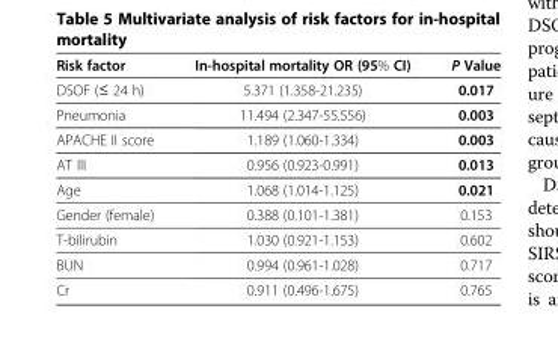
<table><thead><tr><td>Risk factor</td><td>In-hospital mortality OR (95% CI)</td><td>P Value</td></tr></thead><tbody><tr><td>DSOF (≤ 24 h)</td><td>5.371 (1.358-21.235)</td><td>0.017</td></tr><tr><td>Pneumonia</td><td>11.494 (2.347-55.556)</td><td>0.003</td></tr><tr><td>APACHE II score</td><td>1.189 (1.060-1.334)</td><td>0.003</td></tr><tr><td>AT III</td><td>0.956 (0.923-0.991)</td><td>0.013</td></tr><tr><td>Age</td><td>1.068 (1.014-1.125)</td><td>0.021</td></tr><tr><td>Gender (female)</td><td>0.388 (0.101-1.381)</td><td>0.153</td></tr><tr><td>T-bilirubin</td><td>1.030 (0.921-1.153)</td><td>0.602</td></tr><tr><td>BUN</td><td>0.994 (0.961-1.028)</td><td>0.717</td></tr><tr><td>Cr</td><td>0.911 (0.496-1.675)</td><td>0.765</td></tr></tbody></table>